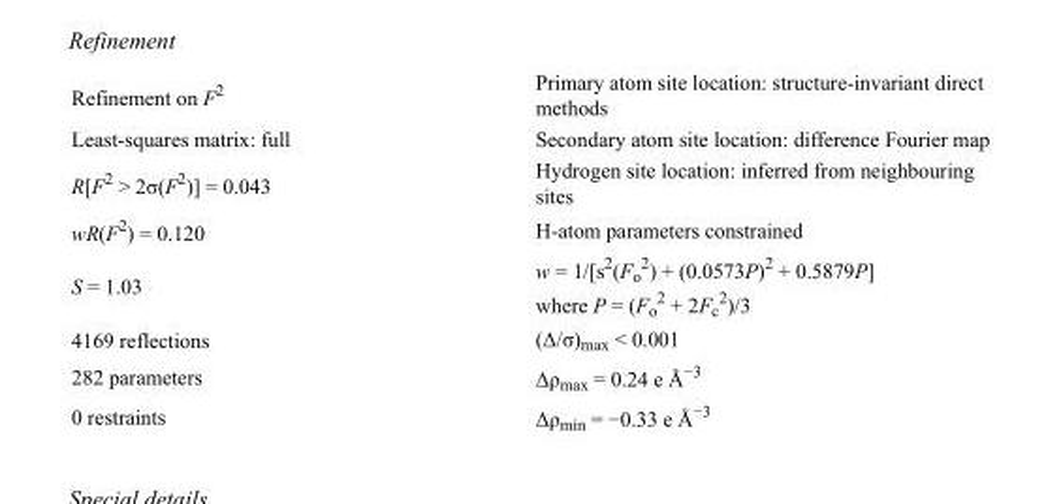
<table><tbody><tr><td>Refinement on F<sup>2</sup></td><td>Primary atom site location: structure-invariant direct methods</td></tr><tr><td>Least-squares matrix: full</td><td>Secondary atom site location: difference Fourier map</td></tr><tr><td>R[F<sup>2</sup> &gt; 2σ(F<sup>2</sup>)] = 0.043</td><td>Hydrogen site location: inferred from neighbouring sites</td></tr><tr><td>wR(F<sup>2</sup>) = 0.120</td><td>H-atom parameters constrained</td></tr><tr><td>S = 1.03</td><td>w = 1/[s<sup>2</sup>(F<sub>o</sub> <sup>2</sup>) + (0.0573P)<sup>2</sup> + 0.5879P] where P = (F<sub>o</sub> <sup>2</sup> + 2F<sub>c</sub> <sup>2</sup>)/3</td></tr><tr><td>4169 reflections</td><td>(Δ/σ)<sub>max</sub> &lt; 0.001</td></tr><tr><td>282 parameters</td><td>Δρ<sub>max</sub> = 0.24 e Å<sup>−3</sup></td></tr><tr><td>0 restraints</td><td>Δρ<sub>min</sub> = −0.33 e Å<sup>−3</sup></td></tr></tbody></table>